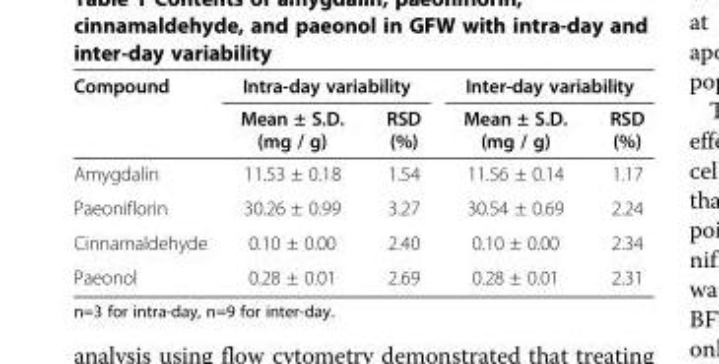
<table><thead><tr><td rowspan="2">Compound</td><td colspan="2">Intra-day variability</td><td colspan="2">Inter-day variability</td></tr><tr><td>Mean ± S.D. (mg / g)</td><td>RSD (%)</td><td>Mean ± S.D. (mg / g)</td><td>RSD (%)</td></tr></thead><tbody><tr><td>Amygdalin</td><td>11.53 ± 0.18</td><td>1.54</td><td>11.56 ± 0.14</td><td>1.17</td></tr><tr><td>Paeoniflorin</td><td>30.26 ± 0.99</td><td>3.27</td><td>30.54 ± 0.69</td><td>2.24</td></tr><tr><td>Cinnamaldehyde</td><td>0.10 ± 0.00</td><td>2.40</td><td>0.10 ± 0.00</td><td>2.34</td></tr><tr><td>Paeonol</td><td>0.28 ± 0.01</td><td>2.69</td><td>0.28 ± 0.01</td><td>2.31</td></tr></tbody></table>